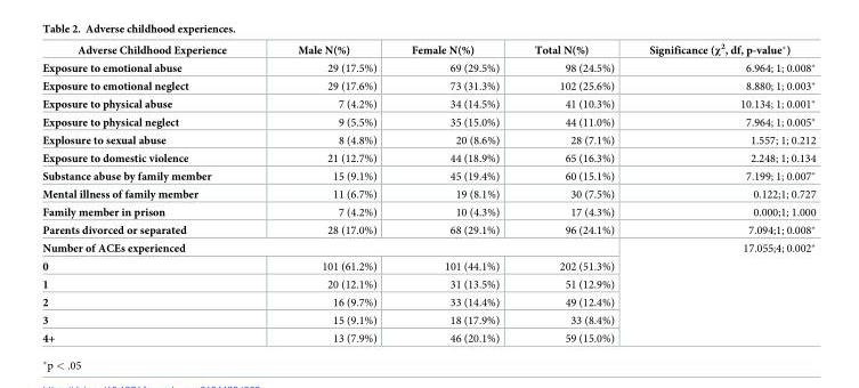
<table><thead><tr><td>Adverse Childhood Experience</td><td>Male N(%)</td><td>Female N(%)</td><td>Total N(%)</td><td>Significance (χ<sup>2</sup>, df, p-value*)</td></tr></thead><tbody><tr><td>Exposure to emotional abuse</td><td>29 (17.5%)</td><td>69 (29.5%)</td><td>98 (24.5%)</td><td>6.964; 1; 0.008*</td></tr><tr><td>Exposure to emotional neglect</td><td>29 (17.6%)</td><td>73 (31.3%)</td><td>102 (25.6%)</td><td>8.880; 1; 0.003*</td></tr><tr><td>Exposure to physical abuse</td><td>7 (4.2%)</td><td>34 (14.5%)</td><td>41 (10.3%)</td><td>10.134; 1; 0.001*</td></tr><tr><td>Exposure to physical neglect</td><td>9 (5.5%)</td><td>35 (15.0%)</td><td>44 (11.0%)</td><td>7.964; 1; 0.005*</td></tr><tr><td>Explosure to sexual abuse</td><td>8 (4.8%)</td><td>20 (8.6%)</td><td>28 (7.1%)</td><td>1.557; 1; 0.212</td></tr><tr><td>Exposure to domestic violence</td><td>21 (12.7%)</td><td>44 (18.9%)</td><td>65 (16.3%)</td><td>2.248; 1; 0.134</td></tr><tr><td>Substance abuse by family member</td><td>15 (9.1%)</td><td>45 (19.4%)</td><td>60 (15.1%)</td><td>7.199; 1; 0.007*</td></tr><tr><td>Mental illness of family member</td><td>11 (6.7%)</td><td>19 (8.1%)</td><td>30 (7.5%)</td><td>0.122;1; 0.727</td></tr><tr><td>Family member in prison</td><td>7 (4.2%)</td><td>10 (4.3%)</td><td>17 (4.3%)</td><td>0.000;1; 1.000</td></tr><tr><td>Parents divorced or separated</td><td>28 (17.0%)</td><td>68 (29.1%)</td><td>96 (24.1%)</td><td>7.094;1; 0.008*</td></tr><tr><td colspan="4">Number of ACEs experienced</td><td rowspan="6">17.055;4; 0.002*</td></tr><tr><td>0</td><td>101 (61.2%)</td><td>101 (44.1%)</td><td>202 (51.3%)</td></tr><tr><td>1</td><td>20 (12.1%)</td><td>31 (13.5%)</td><td>51 (12.9%)</td></tr><tr><td>2</td><td>16 (9.7%)</td><td>33 (14.4%)</td><td>49 (12.4%)</td></tr><tr><td>3</td><td>15 (9.1%)</td><td>18 (17.9%)</td><td>33 (8.4%)</td></tr><tr><td>4+</td><td>13 (7.9%)</td><td>46 (20.1%)</td><td>59 (15.0%)</td></tr></tbody></table>